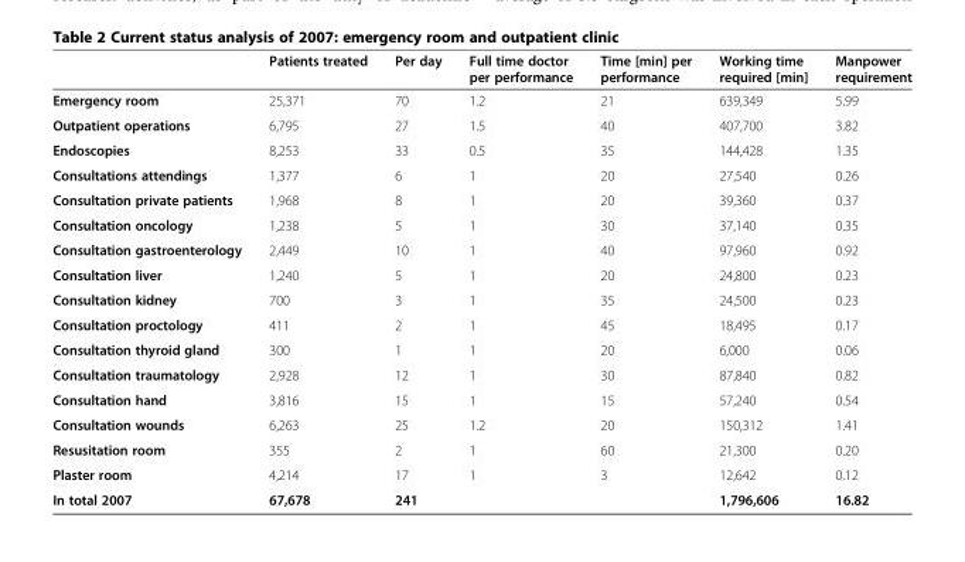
<table><thead><tr><td></td><td>Patients treated</td><td>Per day</td><td>Full time doctor per performance</td><td>Time [min] per performance</td><td>Working time required [min]</td><td>Manpower requirement</td></tr></thead><tbody><tr><td>Emergency room</td><td>25,371</td><td>70</td><td>1.2</td><td>21</td><td>639,349</td><td>5.99</td></tr><tr><td>Outpatient operations</td><td>6,795</td><td>27</td><td>1.5</td><td>40</td><td>407,700</td><td>3.82</td></tr><tr><td>Endoscopies</td><td>8,253</td><td>33</td><td>0.5</td><td>35</td><td>144,428</td><td>1.35</td></tr><tr><td>Consultations attendings</td><td>1,377</td><td>6</td><td>1</td><td>20</td><td>27,540</td><td>0.26</td></tr><tr><td>Consultation private patients</td><td>1,968</td><td>8</td><td>1</td><td>20</td><td>39,360</td><td>0.37</td></tr><tr><td>Consultation oncology</td><td>1,238</td><td>5</td><td>1</td><td>30</td><td>37,140</td><td>0.35</td></tr><tr><td>Consultation gastroenterology</td><td>2,449</td><td>10</td><td>1</td><td>40</td><td>97,960</td><td>0.92</td></tr><tr><td>Consultation liver</td><td>1,240</td><td>5</td><td>1</td><td>20</td><td>24,800</td><td>0.23</td></tr><tr><td>Consultation kidney</td><td>700</td><td>3</td><td>1</td><td>35</td><td>24,500</td><td>0.23</td></tr><tr><td>Consultation proctology</td><td>411</td><td>2</td><td>1</td><td>45</td><td>18,495</td><td>0.17</td></tr><tr><td>Consultation thyroid gland</td><td>300</td><td>1</td><td>1</td><td>20</td><td>6,000</td><td>0.06</td></tr><tr><td>Consultation traumatology</td><td>2,928</td><td>12</td><td>1</td><td>30</td><td>87,840</td><td>0.82</td></tr><tr><td>Consultation hand</td><td>3,816</td><td>15</td><td>1</td><td>15</td><td>57,240</td><td>0.54</td></tr><tr><td>Consultation wounds</td><td>6,263</td><td>25</td><td>1.2</td><td>20</td><td>150,312</td><td>1.41</td></tr><tr><td>Resusitation room</td><td>355</td><td>2</td><td>1</td><td>60</td><td>21,300</td><td>0.20</td></tr><tr><td>Plaster room</td><td>4,214</td><td>17</td><td>1</td><td>3</td><td>12,642</td><td>0.12</td></tr><tr><td>In total 2007</td><td>67,678</td><td>241</td><td></td><td></td><td>1,796,606</td><td>16.82</td></tr></tbody></table>